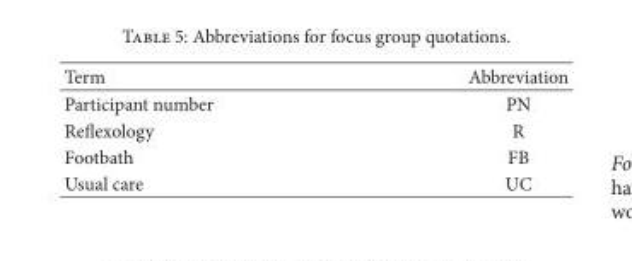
<table><thead><tr><td>Term</td><td>Abbreviation</td></tr></thead><tbody><tr><td>Participant number</td><td>PN</td></tr><tr><td>Reflexology</td><td>R</td></tr><tr><td>Footbath</td><td>FB</td></tr><tr><td>Usual care</td><td>UC</td></tr></tbody></table>